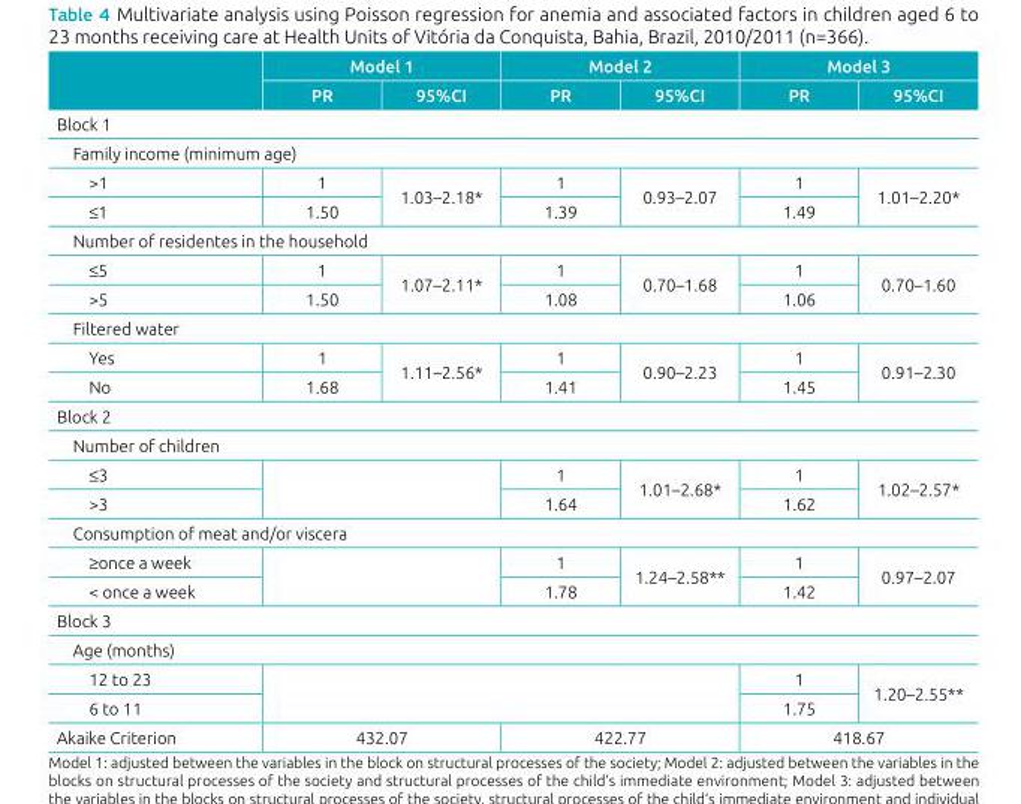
<table><thead><tr><td rowspan="2"></td><td colspan="2">Model 1</td><td colspan="2">Model 2</td><td colspan="2">Model 3</td></tr><tr><td>PR</td><td>95%CI</td><td>PR</td><td>95%CI</td><td>PR</td><td>95%CI</td></tr></thead><tbody><tr><td colspan="7">Block 1</td></tr><tr><td colspan="7">Family income (minimum age)</td></tr><tr><td>&gt;1</td><td>1</td><td rowspan="2">1.03–2.18*</td><td>1</td><td rowspan="2">0.93–2.07</td><td>1</td><td rowspan="2">1.01–2.20*</td></tr><tr><td>≤1</td><td>1.50</td><td>1.39</td><td>1.49</td></tr><tr><td colspan="7">Number of residentes in the household</td></tr><tr><td>≤5</td><td>1</td><td rowspan="2">1.07–2.11*</td><td>1</td><td rowspan="2">0.70–1.68</td><td>1</td><td rowspan="2">0.70–1.60</td></tr><tr><td>&gt;5</td><td>1.50</td><td>1.08</td><td>1.06</td></tr><tr><td colspan="7">Filtered water</td></tr><tr><td>Yes</td><td>1</td><td rowspan="2">1.11–2.56*</td><td>1</td><td rowspan="2">0.90–2.23</td><td>1</td><td rowspan="2">0.91–2.30</td></tr><tr><td>No</td><td>1.68</td><td>1.41</td><td>1.45</td></tr><tr><td colspan="7">Block 2</td></tr><tr><td colspan="7">Number of children</td></tr><tr><td>≤3</td><td rowspan="2" colspan="2"></td><td>1</td><td rowspan="2">1.01–2.68*</td><td>1</td><td rowspan="2">1.02–2.57*</td></tr><tr><td>&gt;3</td><td>1.64</td><td>1.62</td></tr><tr><td colspan="7">Consumption of meat and/or viscera</td></tr><tr><td>≥once a week</td><td rowspan="2" colspan="2"></td><td>1</td><td rowspan="2">1.24–2.58**</td><td>1</td><td rowspan="2">0.97–2.07</td></tr><tr><td>&lt; once a week</td><td>1.78</td><td>1.42</td></tr><tr><td colspan="7">Block 3</td></tr><tr><td colspan="7">Age (months)</td></tr><tr><td>12 to 23</td><td rowspan="2" colspan="4"></td><td>1</td><td rowspan="2">1.20–2.55**</td></tr><tr><td>6 to 11</td><td>1.75</td></tr><tr><td>Akaike Criterion</td><td colspan="2">432.07</td><td colspan="2">422.77</td><td colspan="2">418.67</td></tr></tbody></table>